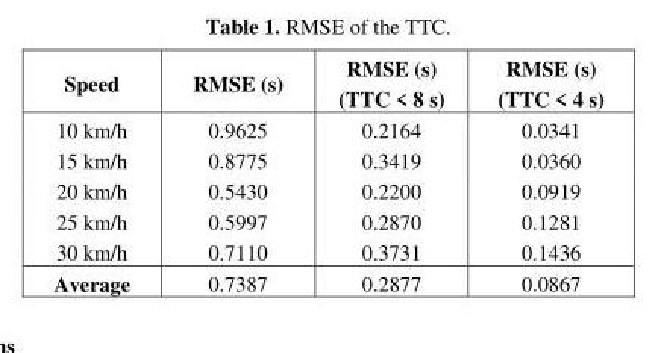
<table><thead><tr><td>Speed</td><td>RMSE (s)</td><td>RMSE (s) (TTC &lt; 8 s)</td><td>RMSE (s) (TTC &lt; 4 s)</td></tr></thead><tbody><tr><td>10 km/h</td><td>0.9625</td><td>0.2164</td><td>0.0341</td></tr><tr><td>15 km/h</td><td>0.8775</td><td>0.3419</td><td>0.0360</td></tr><tr><td>20 km/h</td><td>0.5430</td><td>0.2200</td><td>0.0919</td></tr><tr><td>25 km/h</td><td>0.5997</td><td>0.2870</td><td>0.1281</td></tr><tr><td>30 km/h</td><td>0.7110</td><td>0.3731</td><td>0.1436</td></tr><tr><td>Average</td><td>0.7387</td><td>0.2877</td><td>0.0867</td></tr></tbody></table>